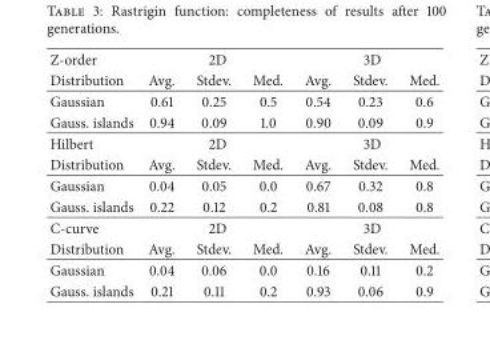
<table><thead><tr><td rowspan="2">Z-order Distribution</td><td colspan="3">2D</td><td colspan="3">3D</td></tr><tr><td>Avg.</td><td>Stdev.</td><td>Med.</td><td>Avg.</td><td>Stdev.</td><td>Med.</td></tr></thead><tbody><tr><td>Gaussian</td><td>0.61</td><td>0.25</td><td>0.5</td><td>0.54</td><td>0.23</td><td>0.6</td></tr><tr><td>Gauss. islands</td><td>0.94</td><td>0.09</td><td>1.0</td><td>0.90</td><td>0.09</td><td>0.9</td></tr><tr><td>Hilbert</td><td colspan="3">2D</td><td colspan="3">3D</td></tr><tr><td>Distribution</td><td>Avg.</td><td>Stdev.</td><td>Med.</td><td>Avg.</td><td>Stdev.</td><td>Med.</td></tr><tr><td>Gaussian</td><td>0.04</td><td>0.05</td><td>0.0</td><td>0.67</td><td>0.32</td><td>0.8</td></tr><tr><td>Gauss. islands</td><td>0.22</td><td>0.12</td><td>0.2</td><td>0.81</td><td>0.08</td><td>0.8</td></tr><tr><td>C-curve</td><td colspan="3">2D</td><td colspan="3">3D</td></tr><tr><td>Distribution</td><td>Avg.</td><td>Stdev.</td><td>Med.</td><td>Avg.</td><td>Stdev.</td><td>Med.</td></tr><tr><td>Gaussian</td><td>0.04</td><td>0.06</td><td>0.0</td><td>0.16</td><td>0.11</td><td>0.2</td></tr><tr><td>Gauss. islands</td><td>0.21</td><td>0.11</td><td>0.2</td><td>0.93</td><td>0.06</td><td>0.9</td></tr></tbody></table>